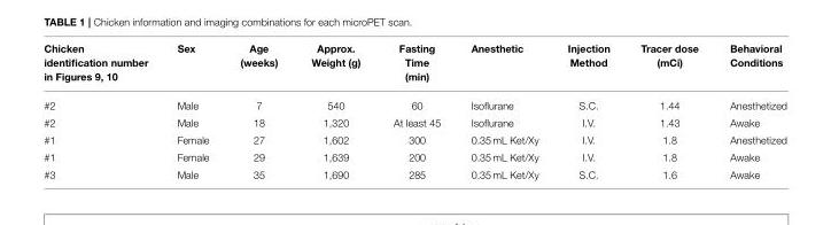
<table><thead><tr><td>Chicken identification number in Figures 9, 10</td><td>Sex</td><td>Age (weeks)</td><td>Approx. Weight (g)</td><td>Fasting Time (min)</td><td>Anesthetic</td><td>Injection Method</td><td>Tracer dose (mCi)</td><td>Behavioral Conditions</td></tr></thead><tbody><tr><td>#2</td><td>Male</td><td>7</td><td>540</td><td>60</td><td>Isoflurane</td><td>S.C.</td><td>1.44</td><td>Anesthetized</td></tr><tr><td>#2</td><td>Male</td><td>18</td><td>1,320</td><td>At least 45</td><td>Isoflurane</td><td>I.V.</td><td>1.43</td><td>Awake</td></tr><tr><td>#1</td><td>Female</td><td>27</td><td>1,602</td><td>300</td><td>0.35 mL Ket/Xy</td><td>I.V.</td><td>1.8</td><td>Anesthetized</td></tr><tr><td>#1</td><td>Female</td><td>29</td><td>1,639</td><td>200</td><td>0.35 mL Ket/Xy</td><td>I.V.</td><td>1.8</td><td>Awake</td></tr><tr><td>#3</td><td>Male</td><td>35</td><td>1,690</td><td>285</td><td>0.35 mL Ket/Xy</td><td>S.C.</td><td>1.6</td><td>Awake</td></tr></tbody></table>